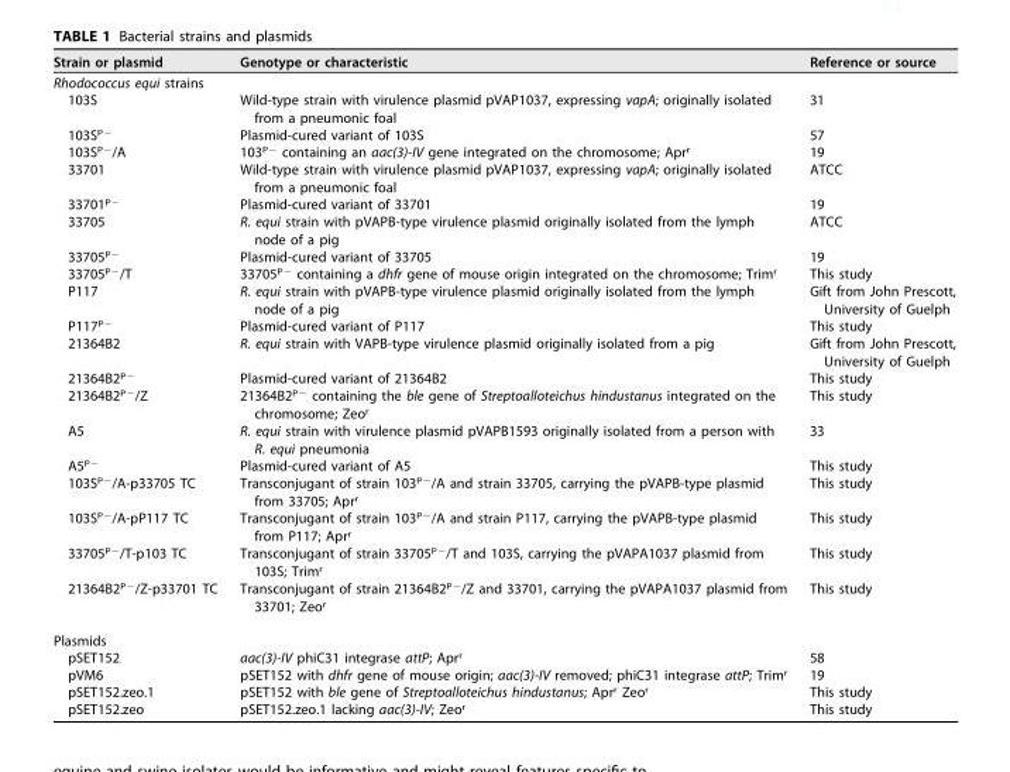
<table><thead><tr><td>Strain or plasmid</td><td>Genotype or characteristic</td><td>Reference or source</td></tr></thead><tbody><tr><td colspan="3">Rhodococcus equi strains</td></tr><tr><td>103S</td><td>Wild-type strain with virulence plasmid pVAP1037, expressing vapA; originally isolated from a pneumonic foal</td><td>31</td></tr><tr><td>103S<sup>P−</sup></td><td>Plasmid-cured variant of 103S</td><td>57</td></tr><tr><td>103S<sup>P−</sup>/A</td><td>103<sup>P−</sup> containing an aac(3)-IV gene integrated on the chromosome; Apr<sup>r</sup></td><td>19</td></tr><tr><td>33701</td><td>Wild-type strain with virulence plasmid pVAP1037, expressing vapA; originally isolated from a pneumonic foal</td><td>ATCC</td></tr><tr><td>33701<sup>P−</sup></td><td>Plasmid-cured variant of 33701</td><td>19</td></tr><tr><td>33705</td><td>R. equi strain with pVAPB-type virulence plasmid originally isolated from the lymph node of a pig</td><td>ATCC</td></tr><tr><td>33705<sup>P−</sup></td><td>Plasmid-cured variant of 33705</td><td>19</td></tr><tr><td>33705<sup>P−</sup>/T</td><td>33705<sup>P−</sup> containing a dhfr gene of mouse origin integrated on the chromosome; Trim<sup>r</sup></td><td>This study</td></tr><tr><td>P117</td><td>R. equi strain with pVAPB-type virulence plasmid originally isolated from the lymph node of a pig</td><td>Gift from John Prescott, University of Guelph</td></tr><tr><td>P117<sup>P−</sup></td><td>Plasmid-cured variant of P117</td><td>This study</td></tr><tr><td>21364B2</td><td>R. equi strain with VAPB-type virulence plasmid originally isolated from a pig</td><td>Gift from John Prescott, University of Guelph</td></tr><tr><td>21364B2<sup>P−</sup></td><td>Plasmid-cured variant of 21364B2</td><td>This study</td></tr><tr><td>21364B2<sup>P−</sup>/Z</td><td>21364B2<sup>P−</sup> containing the ble gene of Streptoalloteichus hindustanus integrated on the chromosome; Zeo<sup>r</sup></td><td>This study</td></tr><tr><td>A5</td><td>R. equi strain with virulence plasmid pVAPB1593 originally isolated from a person with R. equi pneumonia</td><td>33</td></tr><tr><td>A5<sup>P−</sup></td><td>Plasmid-cured variant of A5</td><td>This study</td></tr><tr><td>103S<sup>P−</sup>/A-p33705 TC</td><td>Transconjugant of strain 103<sup>P−</sup>/A and strain 33705, carrying the pVAPB-type plasmid from 33705; Apr<sup>r</sup></td><td>This study</td></tr><tr><td>103S<sup>P−</sup>/A-pP117 TC</td><td>Transconjugant of strain 103<sup>P−</sup>/A and strain P117, carrying the pVAPB-type plasmid from P117; Apr<sup>r</sup></td><td>This study</td></tr><tr><td>33705<sup>P−</sup>/T-p103 TC</td><td>Transconjugant of strain 33705<sup>P−</sup>/T and 103S, carrying the pVAPA1037 plasmid from 103S; Trim<sup>r</sup></td><td>This study</td></tr><tr><td>21364B2<sup>P−</sup>/Z-p33701 TC</td><td>Transconjugant of strain 21364B2<sup>P−</sup>/Z and 33701, carrying the pVAPA1037 plasmid from 33701; Zeo<sup>r</sup></td><td>This study</td></tr><tr><td colspan="3">Plasmids</td></tr><tr><td>pSET152</td><td>aac(3)-IV phiC31 integrase attP; Apr<sup>r</sup></td><td>58</td></tr><tr><td>pVM6</td><td>pSET152 with dhfr gene of mouse origin; aac(3)-IV removed; phiC31 integrase attP; Trim<sup>r</sup></td><td>19</td></tr><tr><td>pSET152.zeo.1</td><td>pSET152 with ble gene of Streptoalloteichus hindustanus; Apr<sup>r</sup> Zeo<sup>r</sup></td><td>This study</td></tr><tr><td>pSET152.zeo</td><td>pSET152.zeo.1 lacking aac(3)-IV; Zeo<sup>r</sup></td><td>This study</td></tr></tbody></table>